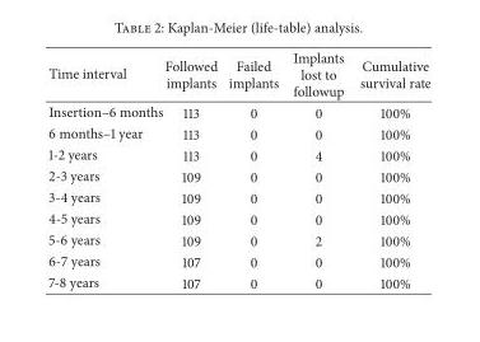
<table><thead><tr><td>Time interval</td><td>Followed implants</td><td>Failed implants</td><td>Implants lost to followup</td><td>Cumulative survival rate</td></tr></thead><tbody><tr><td>Insertion–6 months</td><td>113</td><td>0</td><td>0</td><td>100%</td></tr><tr><td>6 months–1 year</td><td>113</td><td>0</td><td>0</td><td>100%</td></tr><tr><td>1-2 years</td><td>113</td><td>0</td><td>4</td><td>100%</td></tr><tr><td>2-3 years</td><td>109</td><td>0</td><td>0</td><td>100%</td></tr><tr><td>3-4 years</td><td>109</td><td>0</td><td>0</td><td>100%</td></tr><tr><td>4-5 years</td><td>109</td><td>0</td><td>0</td><td>100%</td></tr><tr><td>5-6 years</td><td>109</td><td>0</td><td>2</td><td>100%</td></tr><tr><td>6-7 years</td><td>107</td><td>0</td><td>0</td><td>100%</td></tr><tr><td>7-8 years</td><td>107</td><td>0</td><td>0</td><td>100%</td></tr></tbody></table>